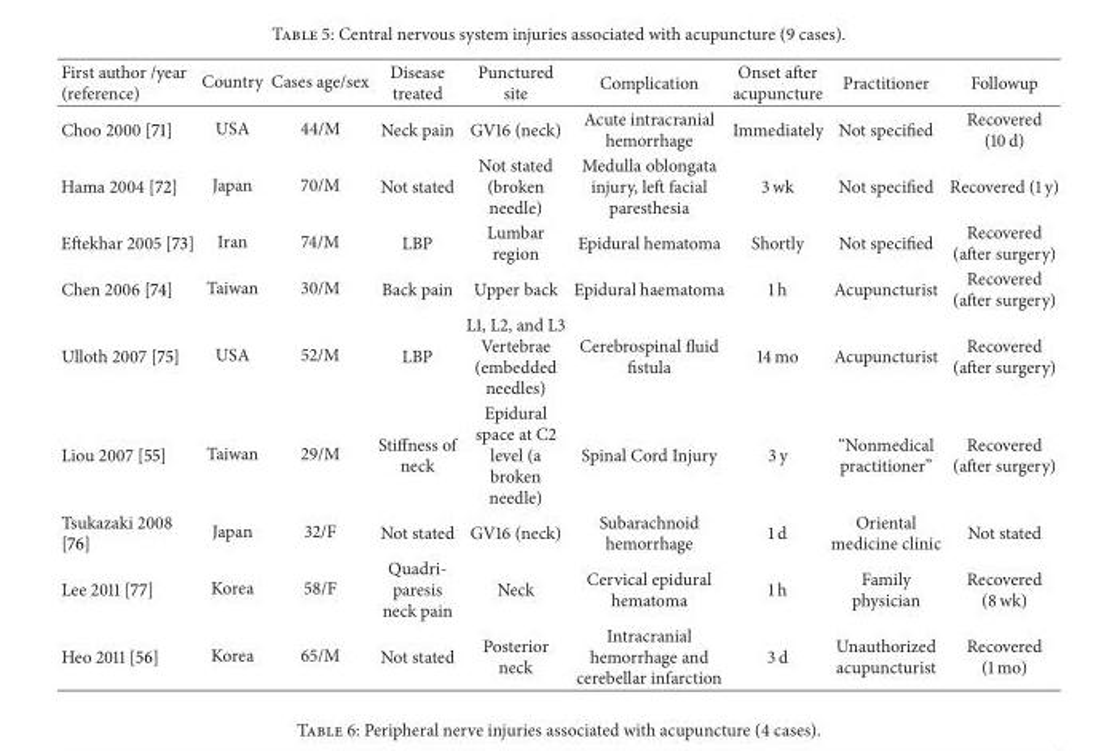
<table><thead><tr><td>First author /year (reference)</td><td>Country</td><td>Cases age/sex</td><td>Disease treated</td><td>Punctured site</td><td>Complication</td><td>Onset after acupuncture</td><td>Practitioner</td><td>Followup</td></tr></thead><tbody><tr><td>Choo 2000 [71]</td><td>USA</td><td>44/M</td><td>Neck pain</td><td>GV16 (neck)</td><td>Acute intracranial hemorrhage</td><td>Immediately</td><td>Not specified</td><td>Recovered (10 d)</td></tr><tr><td>Hama 2004 [72]</td><td>Japan</td><td>70/M</td><td>Not stated</td><td>Not stated (broken needle)</td><td>Medulla oblongata injury, left facial paresthesia</td><td>3 wk</td><td>Not specified</td><td>Recovered (1 y)</td></tr><tr><td>Eftekhar 2005 [73]</td><td>Iran</td><td>74/M</td><td>LBP</td><td>Lumbar region</td><td>Epidural hematoma</td><td>Shortly</td><td>Not specified</td><td>Recovered (after surgery)</td></tr><tr><td>Chen 2006 [74]</td><td>Taiwan</td><td>30/M</td><td>Back pain</td><td>Upper back</td><td>Epidural haematoma</td><td>1 h</td><td>Acupuncturist</td><td>Recovered (after surgery)</td></tr><tr><td>Ulloth 2007 [75]</td><td>USA</td><td>52/M</td><td>LBP</td><td>L1, L2, and L3 Vertebrae (embedded needles)</td><td>Cerebrospinal fluid fistula</td><td>14 mo</td><td>Acupuncturist</td><td>Recovered (after surgery)</td></tr><tr><td>Liou 2007 [55]</td><td>Taiwan</td><td>29/M</td><td>Stiffness of neck</td><td>Epidural space at C2 level (a broken needle)</td><td>Spinal Cord Injury</td><td>3 y</td><td>“Nonmedical practitioner”</td><td>Recovered (after surgery)</td></tr><tr><td>Tsukazaki 2008 [76]</td><td>Japan</td><td>32/F</td><td>Not stated</td><td>GV16 (neck)</td><td>Subarachnoid hemorrhage</td><td>1 d</td><td>Oriental medicine clinic</td><td>Not stated</td></tr><tr><td>Lee 2011 [77]</td><td>Korea</td><td>58/F</td><td>Quadri- paresis neck pain</td><td>Neck</td><td>Cervical epidural hematoma</td><td>1 h</td><td>Family physician</td><td>Recovered (8 wk)</td></tr><tr><td>Heo 2011 [56]</td><td>Korea</td><td>65/M</td><td>Not stated</td><td>Posterior neck</td><td>Intracranial hemorrhage and cerebellar infarction</td><td>3 d</td><td>Unauthorized acupuncturist</td><td>Recovered (1 mo)</td></tr></tbody></table>